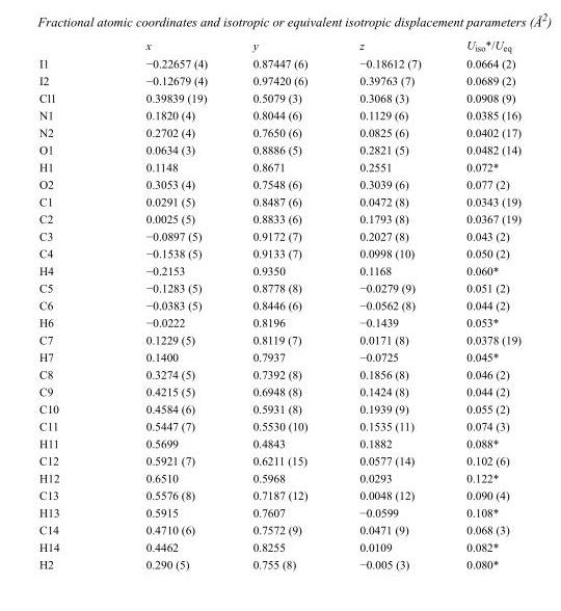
<table><thead><tr><td></td><td>x</td><td>y</td><td>z</td><td>U<sub>iso</sub>*/U<sub>eq</sub></td></tr></thead><tbody><tr><td>I1</td><td>−0.22657 (4)</td><td>0.87447 (6)</td><td>−0.18612 (7)</td><td>0.0664 (2)</td></tr><tr><td>I2</td><td>−0.12679 (4)</td><td>0.97420 (6)</td><td>0.39763 (7)</td><td>0.0689 (2)</td></tr><tr><td>Cl1</td><td>0.39839 (19)</td><td>0.5079 (3)</td><td>0.3068 (3)</td><td>0.0908 (9)</td></tr><tr><td>N1</td><td>0.1820 (4)</td><td>0.8044 (6)</td><td>0.1129 (6)</td><td>0.0385 (16)</td></tr><tr><td>N2</td><td>0.2702 (4)</td><td>0.7650 (6)</td><td>0.0825 (6)</td><td>0.0402 (17)</td></tr><tr><td>O1</td><td>0.0634 (3)</td><td>0.8886 (5)</td><td>0.2821 (5)</td><td>0.0482 (14)</td></tr><tr><td>H1</td><td>0.1148</td><td>0.8671</td><td>0.2551</td><td>0.072*</td></tr><tr><td>O2</td><td>0.3053 (4)</td><td>0.7548 (6)</td><td>0.3039 (6)</td><td>0.077 (2)</td></tr><tr><td>C1</td><td>0.0291 (5)</td><td>0.8487 (6)</td><td>0.0472 (8)</td><td>0.0343 (19)</td></tr><tr><td>C2</td><td>0.0025 (5)</td><td>0.8833 (6)</td><td>0.1793 (8)</td><td>0.0367 (19)</td></tr><tr><td>C3</td><td>−0.0897 (5)</td><td>0.9172 (7)</td><td>0.2027 (8)</td><td>0.043 (2)</td></tr><tr><td>C4</td><td>−0.1538 (5)</td><td>0.9133 (7)</td><td>0.0998 (10)</td><td>0.050 (2)</td></tr><tr><td>H4</td><td>−0.2153</td><td>0.9350</td><td>0.1168</td><td>0.060*</td></tr><tr><td>C5</td><td>−0.1283 (5)</td><td>0.8778 (8)</td><td>−0.0279 (9)</td><td>0.051 (2)</td></tr><tr><td>C6</td><td>−0.0383 (5)</td><td>0.8446 (6)</td><td>−0.0562 (8)</td><td>0.044 (2)</td></tr><tr><td>H6</td><td>−0.0222</td><td>0.8196</td><td>−0.1439</td><td>0.053*</td></tr><tr><td>C7</td><td>0.1229 (5)</td><td>0.8119 (7)</td><td>0.0171 (8)</td><td>0.0378 (19)</td></tr><tr><td>H7</td><td>0.1400</td><td>0.7937</td><td>−0.0725</td><td>0.045*</td></tr><tr><td>C8</td><td>0.3274 (5)</td><td>0.7392 (8)</td><td>0.1856 (8)</td><td>0.046 (2)</td></tr><tr><td>C9</td><td>0.4215 (5)</td><td>0.6948 (8)</td><td>0.1424 (8)</td><td>0.044 (2)</td></tr><tr><td>C10</td><td>0.4584 (6)</td><td>0.5931 (8)</td><td>0.1939 (9)</td><td>0.055 (2)</td></tr><tr><td>C11</td><td>0.5447 (7)</td><td>0.5530 (10)</td><td>0.1535 (11)</td><td>0.074 (3)</td></tr><tr><td>H11</td><td>0.5699</td><td>0.4843</td><td>0.1882</td><td>0.088*</td></tr><tr><td>C12</td><td>0.5921 (7)</td><td>0.6211 (15)</td><td>0.0577 (14)</td><td>0.102 (6)</td></tr><tr><td>H12</td><td>0.6510</td><td>0.5968</td><td>0.0293</td><td>0.122*</td></tr><tr><td>C13</td><td>0.5576 (8)</td><td>0.7187 (12)</td><td>0.0048 (12)</td><td>0.090 (4)</td></tr><tr><td>H13</td><td>0.5915</td><td>0.7607</td><td>−0.0599</td><td>0.108*</td></tr><tr><td>C14</td><td>0.4710 (6)</td><td>0.7572 (9)</td><td>0.0471 (9)</td><td>0.068 (3)</td></tr><tr><td>H14</td><td>0.4462</td><td>0.8255</td><td>0.0109</td><td>0.082*</td></tr><tr><td>H2</td><td>0.290 (5)</td><td>0.755 (8)</td><td>−0.005 (3)</td><td>0.080*</td></tr></tbody></table>